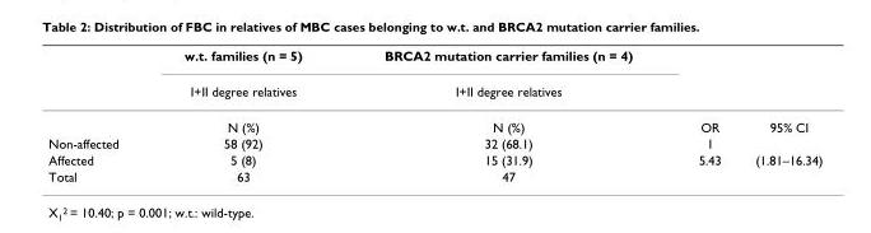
<table><thead><tr><td rowspan="2"></td><td rowspan="2">w.t. families (n = 5) I+II degree relatives</td><td rowspan="2">BRCA2 mutation carrier families (n = 4) I+II degree relatives</td><td rowspan="2"></td><td rowspan="2"></td></tr><tr></tr></thead><tbody><tr><td></td><td>N (%)</td><td>N (%)</td><td>OR</td><td>95% CI</td></tr><tr><td>Non-affected</td><td>58 (92)</td><td>32 (68.1)</td><td>1</td><td></td></tr><tr><td>Affected</td><td>5 (8)</td><td>15 (31.9)</td><td>5.43</td><td>(1.81–16.34)</td></tr><tr><td>Total</td><td>63</td><td>47</td><td></td><td></td></tr></tbody></table>